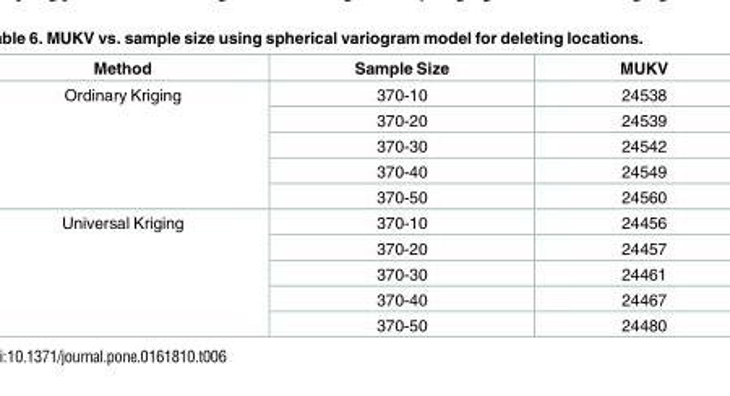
<table><thead><tr><td>Method</td><td>Sample Size</td><td>MUKV</td></tr></thead><tbody><tr><td rowspan="5">Ordinary Kriging</td><td>370-10</td><td>24538</td></tr><tr><td>370-20</td><td>24539</td></tr><tr><td>370-30</td><td>24542</td></tr><tr><td>370-40</td><td>24549</td></tr><tr><td>370-50</td><td>24560</td></tr><tr><td rowspan="5">Universal Kriging</td><td>370-10</td><td>24456</td></tr><tr><td>370-20</td><td>24457</td></tr><tr><td>370-30</td><td>24461</td></tr><tr><td>370-40</td><td>24467</td></tr><tr><td>370-50</td><td>24480</td></tr></tbody></table>